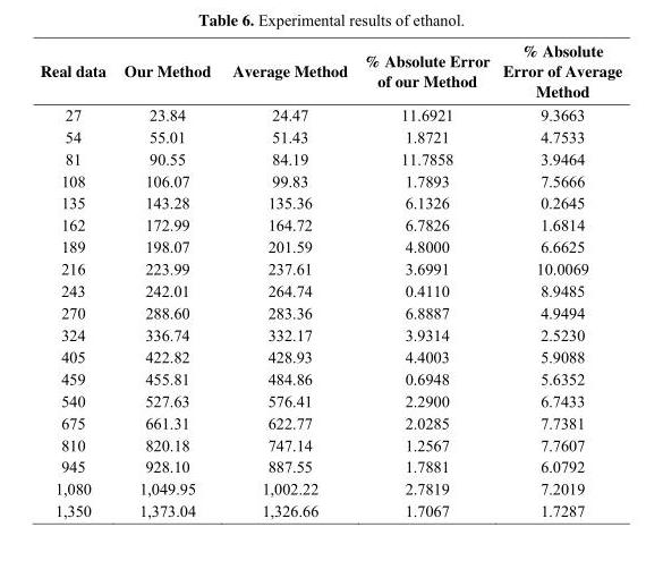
<table><thead><tr><td>Real data</td><td>Our Method</td><td>Average Method</td><td>% Absolute Error of our Method</td><td>% Absolute Error of Average Method</td></tr></thead><tbody><tr><td>27</td><td>23.84</td><td>24.47</td><td>11.6921</td><td>9.3663</td></tr><tr><td>54</td><td>55.01</td><td>51.43</td><td>1.8721</td><td>4.7533</td></tr><tr><td>81</td><td>90.55</td><td>84.19</td><td>11.7858</td><td>3.9464</td></tr><tr><td>108</td><td>106.07</td><td>99.83</td><td>1.7893</td><td>7.5666</td></tr><tr><td>135</td><td>143.28</td><td>135.36</td><td>6.1326</td><td>0.2645</td></tr><tr><td>162</td><td>172.99</td><td>164.72</td><td>6.7826</td><td>1.6814</td></tr><tr><td>189</td><td>198.07</td><td>201.59</td><td>4.8000</td><td>6.6625</td></tr><tr><td>216</td><td>223.99</td><td>237.61</td><td>3.6991</td><td>10.0069</td></tr><tr><td>243</td><td>242.01</td><td>264.74</td><td>0.4110</td><td>8.9485</td></tr><tr><td>270</td><td>288.60</td><td>283.36</td><td>6.8887</td><td>4.9494</td></tr><tr><td>324</td><td>336.74</td><td>332.17</td><td>3.9314</td><td>2.5230</td></tr><tr><td>405</td><td>422.82</td><td>428.93</td><td>4.4003</td><td>5.9088</td></tr><tr><td>459</td><td>455.81</td><td>484.86</td><td>0.6948</td><td>5.6352</td></tr><tr><td>540</td><td>527.63</td><td>576.41</td><td>2.2900</td><td>6.7433</td></tr><tr><td>675</td><td>661.31</td><td>622.77</td><td>2.0285</td><td>7.7381</td></tr><tr><td>810</td><td>820.18</td><td>747.14</td><td>1.2567</td><td>7.7607</td></tr><tr><td>945</td><td>928.10</td><td>887.55</td><td>1.7881</td><td>6.0792</td></tr><tr><td>1,080</td><td>1,049.95</td><td>1,002.22</td><td>2.7819</td><td>7.2019</td></tr><tr><td>1,350</td><td>1,373.04</td><td>1,326.66</td><td>1.7067</td><td>1.7287</td></tr></tbody></table>